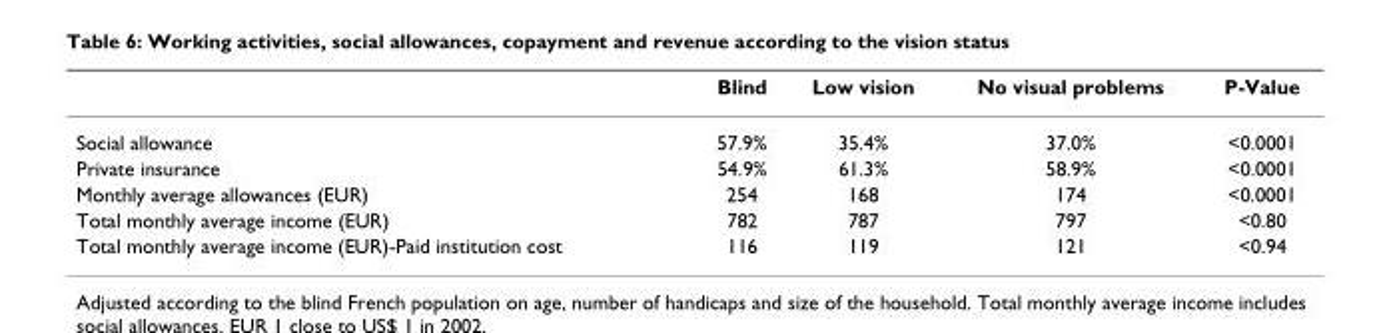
<table><thead><tr><td></td><td>Blind</td><td>Low vision</td><td>No visual problems</td><td>P-Value</td></tr></thead><tbody><tr><td>Social allowance</td><td>57.9%</td><td>35.4%</td><td>37.0%</td><td>&lt;0.0001</td></tr><tr><td>Private insurance</td><td>54.9%</td><td>61.3%</td><td>58.9%</td><td>&lt;0.0001</td></tr><tr><td>Monthly average allowances (EUR)</td><td>254</td><td>168</td><td>174</td><td>&lt;0.0001</td></tr><tr><td>Total monthly average income (EUR)</td><td>782</td><td>787</td><td>797</td><td>&lt;0.80</td></tr><tr><td>Total monthly average income (EUR)-Paid institution cost</td><td>116</td><td>119</td><td>121</td><td>&lt;0.94</td></tr></tbody></table>